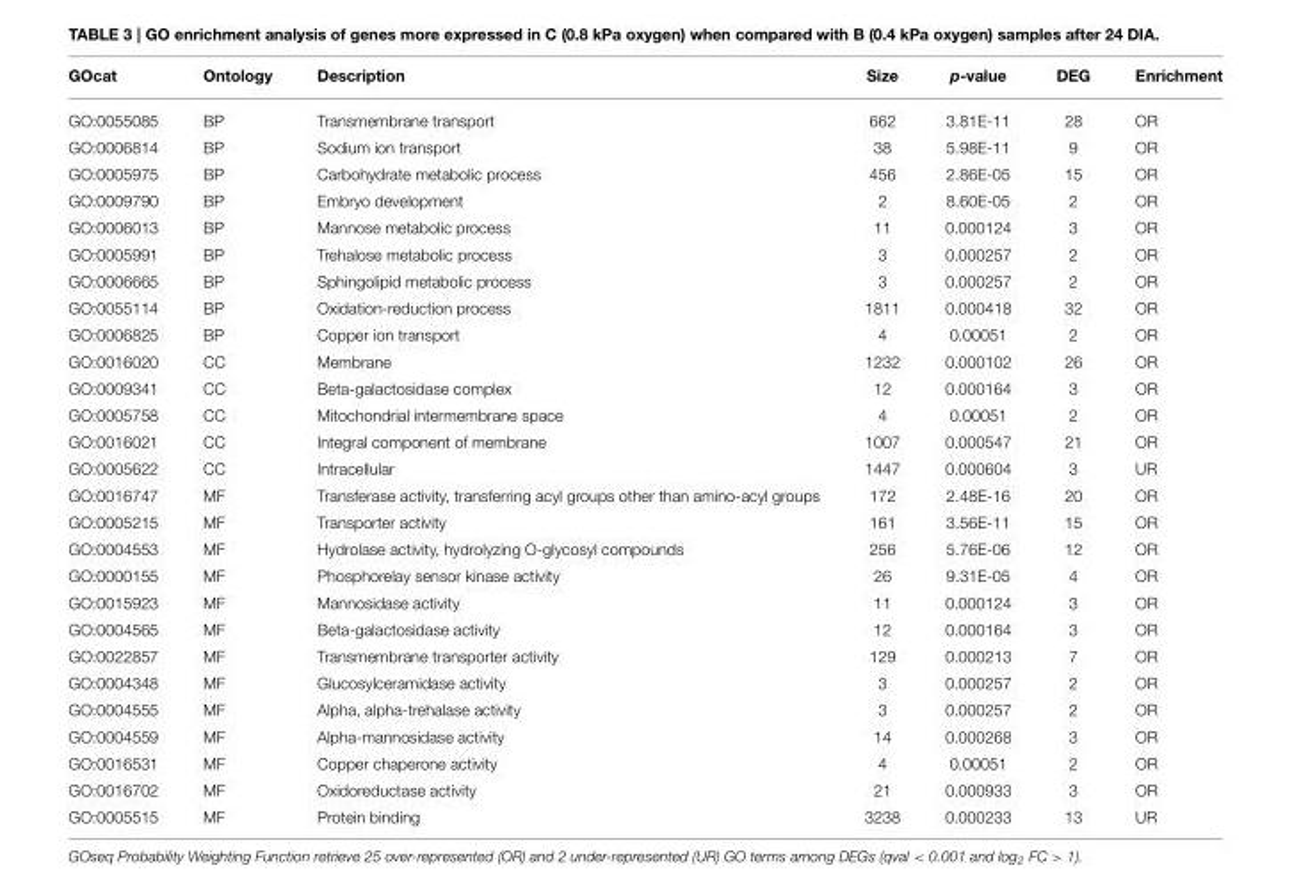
<table><thead><tr><td>GOcat</td><td>Ontology</td><td>Description</td><td>Size</td><td>p-value</td><td>DEG</td><td>Enrichment</td></tr></thead><tbody><tr><td>GO:0055085</td><td>BP</td><td>Transmembrane transport</td><td>662</td><td>3.81E-11</td><td>28</td><td>OR</td></tr><tr><td>GO:0006814</td><td>BP</td><td>Sodium ion transport</td><td>38</td><td>5.98E-11</td><td>9</td><td>OR</td></tr><tr><td>GO:0005975</td><td>BP</td><td>Carbohydrate metabolic process</td><td>456</td><td>2.86E-05</td><td>15</td><td>OR</td></tr><tr><td>GO:0009790</td><td>BP</td><td>Embryo development</td><td>2</td><td>8.60E-05</td><td>2</td><td>OR</td></tr><tr><td>GO:0006013</td><td>BP</td><td>Mannose metabolic process</td><td>11</td><td>0.000124</td><td>3</td><td>OR</td></tr><tr><td>GO:0005991</td><td>BP</td><td>Trehalose metabolic process</td><td>3</td><td>0.000257</td><td>2</td><td>OR</td></tr><tr><td>GO:0006665</td><td>BP</td><td>Sphingolipid metabolic process</td><td>3</td><td>0.000257</td><td>2</td><td>OR</td></tr><tr><td>GO:0055114</td><td>BP</td><td>Oxidation-reduction process</td><td>1811</td><td>0.000418</td><td>32</td><td>OR</td></tr><tr><td>GO:0006825</td><td>BP</td><td>Copper ion transport</td><td>4</td><td>0.00051</td><td>2</td><td>OR</td></tr><tr><td>GO:0016020</td><td>CC</td><td>Membrane</td><td>1232</td><td>0.000102</td><td>26</td><td>OR</td></tr><tr><td>GO:0009341</td><td>CC</td><td>Beta-galactosidase complex</td><td>12</td><td>0.000164</td><td>3</td><td>OR</td></tr><tr><td>GO:0005758</td><td>CC</td><td>Mitochondrial intermembrane space</td><td>4</td><td>0.00051</td><td>2</td><td>OR</td></tr><tr><td>GO:0016021</td><td>CC</td><td>Integral component of membrane</td><td>1007</td><td>0.000547</td><td>21</td><td>OR</td></tr><tr><td>GO:0005622</td><td>CC</td><td>Intracellular</td><td>1447</td><td>0.000604</td><td>3</td><td>UR</td></tr><tr><td>GO:0016747</td><td>MF</td><td>Transferase activity, transferring acyl groups other than amino-acyl groups</td><td>172</td><td>2.48E-16</td><td>20</td><td>OR</td></tr><tr><td>GO:0005215</td><td>MF</td><td>Transporter activity</td><td>161</td><td>3.56E-11</td><td>15</td><td>OR</td></tr><tr><td>GO:0004553</td><td>MF</td><td>Hydrolase activity, hydrolyzing O-glycosyl compounds</td><td>256</td><td>5.76E-06</td><td>12</td><td>OR</td></tr><tr><td>GO:0000155</td><td>MF</td><td>Phosphorelay sensor kinase activity</td><td>26</td><td>9.31E-05</td><td>4</td><td>OR</td></tr><tr><td>GO:0015923</td><td>MF</td><td>Mannosidase activity</td><td>11</td><td>0.000124</td><td>3</td><td>OR</td></tr><tr><td>GO:0004565</td><td>MF</td><td>Beta-galactosidase activity</td><td>12</td><td>0.000164</td><td>3</td><td>OR</td></tr><tr><td>GO:0022857</td><td>MF</td><td>Transmembrane transporter activity</td><td>129</td><td>0.000213</td><td>7</td><td>OR</td></tr><tr><td>GO:0004348</td><td>MF</td><td>Glucosylceramidase activity</td><td>3</td><td>0.000257</td><td>2</td><td>OR</td></tr><tr><td>GO:0004555</td><td>MF</td><td>Alpha, alpha-trehalase activity</td><td>3</td><td>0.000257</td><td>2</td><td>OR</td></tr><tr><td>GO:0004559</td><td>MF</td><td>Alpha-mannosidase activity</td><td>14</td><td>0.000268</td><td>3</td><td>OR</td></tr><tr><td>GO:0016531</td><td>MF</td><td>Copper chaperone activity</td><td>4</td><td>0.00051</td><td>2</td><td>OR</td></tr><tr><td>GO:0016702</td><td>MF</td><td>Oxidoreductase activity</td><td>21</td><td>0.000933</td><td>3</td><td>OR</td></tr><tr><td>GO:0005515</td><td>MF</td><td>Protein binding</td><td>3238</td><td>0.000233</td><td>13</td><td>UR</td></tr></tbody></table>